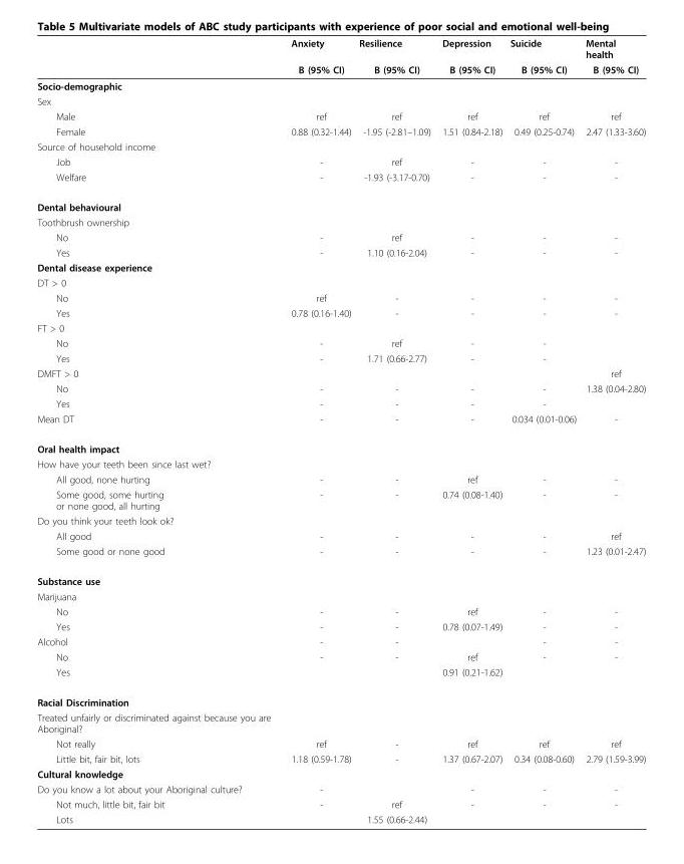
<table><thead><tr><td rowspan="2"></td><td rowspan="2">Anxiety B (95% CI)</td><td rowspan="2">Resilience B (95% CI)</td><td rowspan="2">Depression B (95% CI)</td><td rowspan="2">Suicide B (95% CI)</td><td rowspan="2">Mental health B (95% CI)</td></tr><tr></tr></thead><tbody><tr><td colspan="6">Socio-demographic</td></tr><tr><td colspan="6">Sex</td></tr><tr><td>Male</td><td>ref</td><td>ref</td><td>ref</td><td>ref</td><td>ref</td></tr><tr><td>Female</td><td>0.88 (0.32-1.44)</td><td>-1.95 (-2.81–1.09)</td><td>1.51 (0.84-2.18)</td><td>0.49 (0.25-0.74)</td><td>2.47 (1.33-3.60)</td></tr><tr><td colspan="6">Source of household income</td></tr><tr><td>Job</td><td>-</td><td>ref</td><td>-</td><td>-</td><td>-</td></tr><tr><td>Welfare</td><td>-</td><td>-1.93 (-3.17-0.70)</td><td>-</td><td>-</td><td>-</td></tr><tr><td colspan="6">Dental behavioural</td></tr><tr><td colspan="6">Toothbrush ownership</td></tr><tr><td>No</td><td>-</td><td>ref</td><td>-</td><td>-</td><td>-</td></tr><tr><td>Yes</td><td>-</td><td>1.10 (0.16-2.04)</td><td>-</td><td>-</td><td>-</td></tr><tr><td colspan="6">Dental disease experience</td></tr><tr><td colspan="6">DT &gt; 0</td></tr><tr><td>No</td><td>ref</td><td>-</td><td>-</td><td>-</td><td>-</td></tr><tr><td>Yes</td><td>0.78 (0.16-1.40)</td><td>-</td><td>-</td><td>-</td><td>-</td></tr><tr><td colspan="6">FT &gt; 0</td></tr><tr><td>No</td><td>-</td><td>ref</td><td>-</td><td>-</td><td></td></tr><tr><td>Yes</td><td>-</td><td>1.71 (0.66-2.77)</td><td>-</td><td>-</td><td></td></tr><tr><td>DMFT &gt; 0</td><td></td><td></td><td></td><td></td><td>ref</td></tr><tr><td>No</td><td>-</td><td>-</td><td>-</td><td>-</td><td>1.38 (0.04-2.80)</td></tr><tr><td>Yes</td><td>-</td><td>-</td><td>-</td><td>-</td><td></td></tr><tr><td>Mean DT</td><td>-</td><td>-</td><td>-</td><td>0.034 (0.01-0.06)</td><td>-</td></tr><tr><td colspan="6">Oral health impact</td></tr><tr><td colspan="6">How have your teeth been since last wet?</td></tr><tr><td>All good, none hurting</td><td>-</td><td>-</td><td>ref</td><td>-</td><td>-</td></tr><tr><td>Some good, some hurting or none good, all hurting</td><td>-</td><td>-</td><td>0.74 (0.08-1.40)</td><td>-</td><td>-</td></tr><tr><td colspan="6">Do you think your teeth look ok?</td></tr><tr><td>All good</td><td>-</td><td>-</td><td>-</td><td>-</td><td>ref</td></tr><tr><td>Some good or none good</td><td>-</td><td>-</td><td>-</td><td>-</td><td>1.23 (0.01-2.47)</td></tr><tr><td colspan="6">Substance use</td></tr><tr><td colspan="6">Marijuana</td></tr><tr><td>No</td><td>-</td><td>-</td><td>ref</td><td>-</td><td>-</td></tr><tr><td>Yes</td><td>-</td><td>-</td><td>0.78 (0.07-1.49)</td><td>-</td><td>-</td></tr><tr><td>Alcohol</td><td>-</td><td>-</td><td></td><td>-</td><td>-</td></tr><tr><td>No</td><td>-</td><td>-</td><td>ref</td><td>-</td><td>-</td></tr><tr><td>Yes</td><td></td><td></td><td>0.91 (0.21-1.62)</td><td></td><td></td></tr><tr><td colspan="6">Racial Discrimination</td></tr><tr><td colspan="6">Treated unfairly or discriminated against because you are Aboriginal?</td></tr><tr><td>Not really</td><td>ref</td><td>-</td><td>ref</td><td>ref</td><td>ref</td></tr><tr><td>Little bit, fair bit, lots</td><td>1.18 (0.59-1.78)</td><td>-</td><td>1.37 (0.67-2.07)</td><td>0.34 (0.08-0.60)</td><td>2.79 (1.59-3.99)</td></tr><tr><td colspan="6">Cultural knowledge</td></tr><tr><td>Do you know a lot about your Aboriginal culture?</td><td>-</td><td></td><td>-</td><td>-</td><td>-</td></tr><tr><td>Not much, little bit, fair bit</td><td>-</td><td>ref</td><td>-</td><td>-</td><td>-</td></tr><tr><td>Lots</td><td></td><td>1.55 (0.66-2.44)</td><td></td><td></td><td></td></tr></tbody></table>